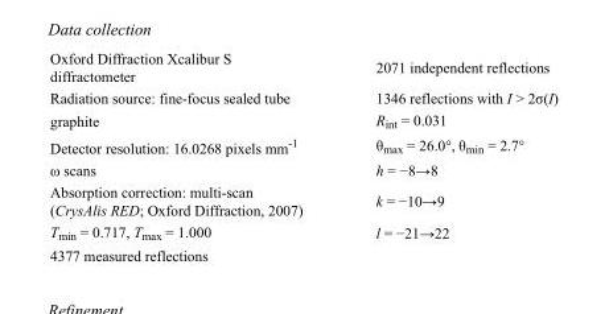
<table><tbody><tr><td>Oxford Diffraction Xcalibur S diffractometer</td><td>2071 independent reflections</td></tr><tr><td>Radiation source: fine-focus sealed tube</td><td>1346 reflections with I &gt; 2σ(I)</td></tr><tr><td>graphite</td><td>R<sub>int</sub> = 0.031</td></tr><tr><td>Detector resolution: 16.0268 pixels mm<sup>-1</sup></td><td>θ<sub>max</sub> = 26.0°, θ<sub>min</sub> = 2.7°</td></tr><tr><td>ω scans</td><td>h = −8→8</td></tr><tr><td>Absorption correction: multi-scan (CrysAlis RED; Oxford Diffraction, 2007)</td><td>k = −10→9</td></tr><tr><td>T<sub>min</sub> = 0.717, T<sub>max</sub> = 1.000</td><td>l = −21→22</td></tr><tr><td>4377 measured reflections</td><td></td></tr></tbody></table>